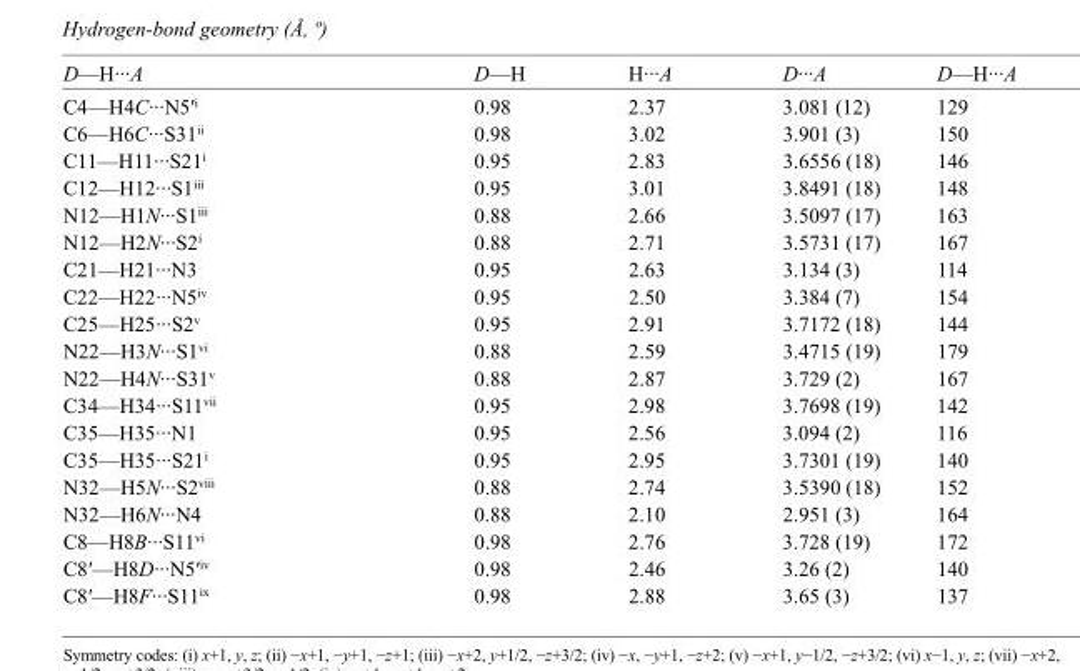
<table><tbody><tr><td>D—H···A</td><td>D—H</td><td>H···A</td><td>D···A</td><td>D—H···A</td></tr><tr><td>C4—H4C···N5′<sup>i</sup></td><td>0.98</td><td>2.37</td><td>3.081 (12)</td><td>129</td></tr><tr><td>C6—H6C···S31<sup>ii</sup></td><td>0.98</td><td>3.02</td><td>3.901 (3)</td><td>150</td></tr><tr><td>C11—H11···S21<sup>i</sup></td><td>0.95</td><td>2.83</td><td>3.6556 (18)</td><td>146</td></tr><tr><td>C12—H12···S1<sup>iii</sup></td><td>0.95</td><td>3.01</td><td>3.8491 (18)</td><td>148</td></tr><tr><td>N12—H1N···S1<sup>iii</sup></td><td>0.88</td><td>2.66</td><td>3.5097 (17)</td><td>163</td></tr><tr><td>N12—H2N···S2<sup>i</sup></td><td>0.88</td><td>2.71</td><td>3.5731 (17)</td><td>167</td></tr><tr><td>C21—H21···N3</td><td>0.95</td><td>2.63</td><td>3.134 (3)</td><td>114</td></tr><tr><td>C22—H22···N5<sup>iv</sup></td><td>0.95</td><td>2.50</td><td>3.384 (7)</td><td>154</td></tr><tr><td>C25—H25···S2<sup>v</sup></td><td>0.95</td><td>2.91</td><td>3.7172 (18)</td><td>144</td></tr><tr><td>N22—H3N···S1<sup>vi</sup></td><td>0.88</td><td>2.59</td><td>3.4715 (19)</td><td>179</td></tr><tr><td>N22—H4N···S31<sup>v</sup></td><td>0.88</td><td>2.87</td><td>3.729 (2)</td><td>167</td></tr><tr><td>C34—H34···S11<sup>vii</sup></td><td>0.95</td><td>2.98</td><td>3.7698 (19)</td><td>142</td></tr><tr><td>C35—H35···N1</td><td>0.95</td><td>2.56</td><td>3.094 (2)</td><td>116</td></tr><tr><td>C35—H35···S21<sup>i</sup></td><td>0.95</td><td>2.95</td><td>3.7301 (19)</td><td>140</td></tr><tr><td>N32—H5N···S2<sup>viii</sup></td><td>0.88</td><td>2.74</td><td>3.5390 (18)</td><td>152</td></tr><tr><td>N32—H6N···N4</td><td>0.88</td><td>2.10</td><td>2.951 (3)</td><td>164</td></tr><tr><td>C8—H8B···S11<sup>vi</sup></td><td>0.98</td><td>2.76</td><td>3.728 (19)</td><td>172</td></tr><tr><td>C8′—H8D···N5′<sup>iv</sup></td><td>0.98</td><td>2.46</td><td>3.26 (2)</td><td>140</td></tr><tr><td>C8′—H8F···S11<sup>ix</sup></td><td>0.98</td><td>2.88</td><td>3.65 (3)</td><td>137</td></tr></tbody></table>